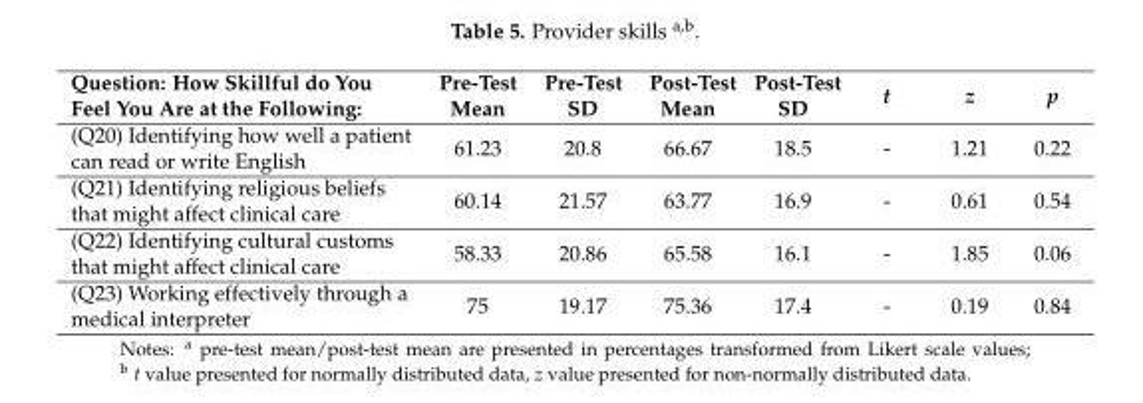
<table><thead><tr><td>Question: How Skillful do You Feel You Are at the Following:</td><td>Pre-Test Mean</td><td>Pre-Test SD</td><td>Post-Test Mean</td><td>Post-Test SD</td><td>t</td><td>z</td><td>p</td></tr></thead><tbody><tr><td>(Q20) Identifying how well a patient can read or write English</td><td>61.23</td><td>20.8</td><td>66.67</td><td>18.5</td><td>-</td><td>1.21</td><td>0.22</td></tr><tr><td>(Q21) Identifying religious beliefs that might affect clinical care</td><td>60.14</td><td>21.57</td><td>63.77</td><td>16.9</td><td>-</td><td>0.61</td><td>0.54</td></tr><tr><td>(Q22) Identifying cultural customs that might affect clinical care</td><td>58.33</td><td>20.86</td><td>65.58</td><td>16.1</td><td>-</td><td>1.85</td><td>0.06</td></tr><tr><td>(Q23) Working effectively through a medical interpreter</td><td>75</td><td>19.17</td><td>75.36</td><td>17.4</td><td>-</td><td>0.19</td><td>0.84</td></tr></tbody></table>